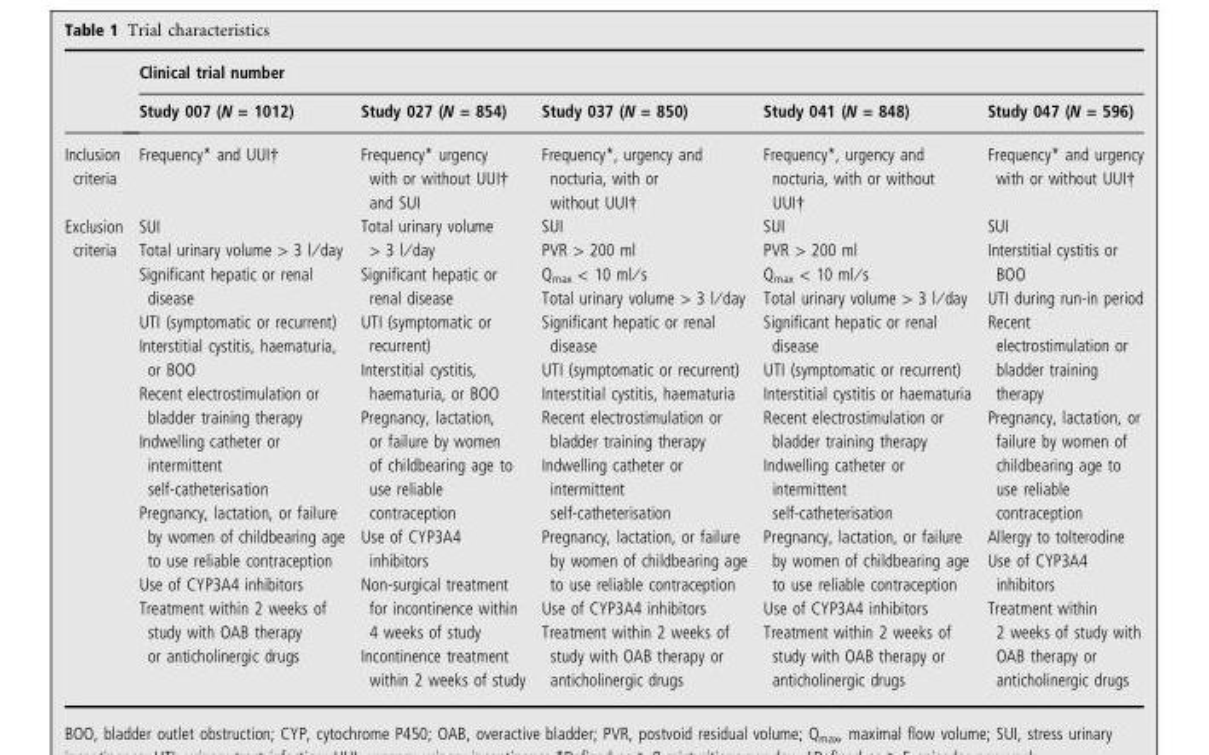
<table><thead><tr><td rowspan="2"></td><td colspan="5">Clinical trial number</td></tr><tr><td>Study 007 (N = 1012)</td><td>Study 027 (N = 854)</td><td>Study 037 (N = 850)</td><td>Study 041 (N = 848)</td><td>Study 047 (N = 596)</td></tr></thead><tbody><tr><td>Inclusion criteria</td><td>Frequency* and UUI†</td><td>Frequency* urgency with or without UUI† and SUI</td><td>Frequency*, urgency and nocturia, with or without UUI†</td><td>Frequency*, urgency and nocturia, with or without UUI†</td><td>Frequency* and urgency with or without UUI†</td></tr><tr><td>Exclusion criteria</td><td>SUI Total urinary volume &gt; 3 l ⁄ day Significant hepatic or renal disease UTI (symptomatic or recurrent) Interstitial cystitis, haematuria, or BOO Recent electrostimulation or bladder training therapy Indwelling catheter or intermittent self-catheterisation Pregnancy, lactation, or failure by women of childbearing age to use reliable contraception Use of CYP3A4 inhibitors Treatment within 2 weeks of study with OAB therapy or anticholinergic drugs</td><td>Total urinary volume &gt; 3 l ⁄ day Significant hepatic or renal disease UTI (symptomatic or recurrent) Interstitial cystitis, haematuria, or BOO Pregnancy, lactation, or failure by women of childbearing age to use reliable contraception Use of CYP3A4 inhibitors Non-surgical treatment for incontinence within 4 weeks of study Incontinence treatment within 2 weeks of study</td><td>SUI PVR &gt; 200 ml Qmax &lt; 10 ml ⁄ s Total urinary volume &gt; 3 l ⁄ day Significant hepatic or renal disease UTI (symptomatic or recurrent) Interstitial cystitis, haematuria Recent electrostimulation or bladder training therapy Indwelling catheter or intermittent self-catheterisation Pregnancy, lactation, or failure by women of childbearing age to use reliable contraception Use of CYP3A4 inhibitors Treatment within 2 weeks of study with OAB therapy or anticholinergic drugs</td><td>SUI PVR &gt; 200 ml Qmax &lt; 10 ml ⁄ s Total urinary volume &gt; 3 l ⁄ day Significant hepatic or renal disease UTI (symptomatic or recurrent) Interstitial cystitis or haematuria Recent electrostimulation or bladder training therapy Indwelling catheter or intermittent self-catheterisation Pregnancy, lactation, or failure by women of childbearing age to use reliable contraception Use of CYP3A4 inhibitors Treatment within 2 weeks of study with OAB therapy or anticholinergic drugs</td><td>SUI Interstitial cystitis or BOO UTI during run-in period Recent electrostimulation or bladder training therapy Pregnancy, lactation, or failure by women of childbearing age to use reliable contraception Allergy to tolterodine Use of CYP3A4 inhibitors Treatment within 2 weeks of study with OAB therapy or anticholinergic drugs</td></tr></tbody></table>